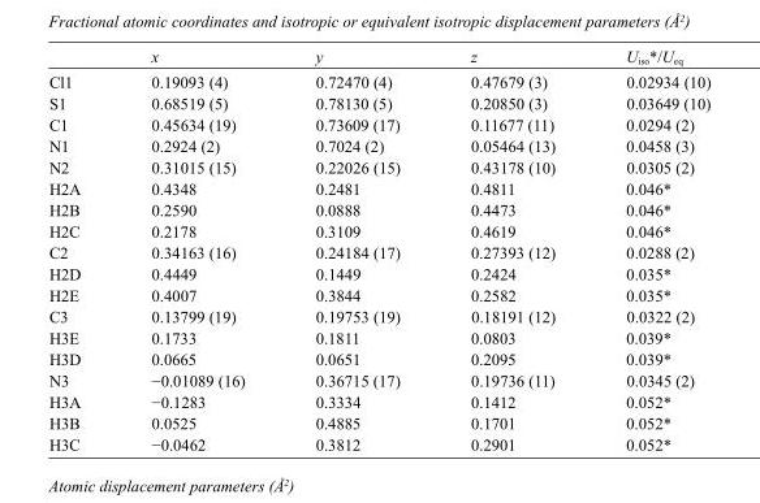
<table><thead><tr><td></td><td>x</td><td>y</td><td>z</td><td>U<sub>iso</sub>*/U<sub>eq</sub></td></tr></thead><tbody><tr><td>Cl1</td><td>0.19093 (4)</td><td>0.72470 (4)</td><td>0.47679 (3)</td><td>0.02934 (10)</td></tr><tr><td>S1</td><td>0.68519 (5)</td><td>0.78130 (5)</td><td>0.20850 (3)</td><td>0.03649 (10)</td></tr><tr><td>C1</td><td>0.45634 (19)</td><td>0.73609 (17)</td><td>0.11677 (11)</td><td>0.0294 (2)</td></tr><tr><td>N1</td><td>0.2924 (2)</td><td>0.7024 (2)</td><td>0.05464 (13)</td><td>0.0458 (3)</td></tr><tr><td>N2</td><td>0.31015 (15)</td><td>0.22026 (15)</td><td>0.43178 (10)</td><td>0.0305 (2)</td></tr><tr><td>H2A</td><td>0.4348</td><td>0.2481</td><td>0.4811</td><td>0.046*</td></tr><tr><td>H2B</td><td>0.2590</td><td>0.0888</td><td>0.4473</td><td>0.046*</td></tr><tr><td>H2C</td><td>0.2178</td><td>0.3109</td><td>0.4619</td><td>0.046*</td></tr><tr><td>C2</td><td>0.34163 (16)</td><td>0.24184 (17)</td><td>0.27393 (12)</td><td>0.0288 (2)</td></tr><tr><td>H2D</td><td>0.4449</td><td>0.1449</td><td>0.2424</td><td>0.035*</td></tr><tr><td>H2E</td><td>0.4007</td><td>0.3844</td><td>0.2582</td><td>0.035*</td></tr><tr><td>C3</td><td>0.13799 (19)</td><td>0.19753 (19)</td><td>0.18191 (12)</td><td>0.0322 (2)</td></tr><tr><td>H3E</td><td>0.1733</td><td>0.1811</td><td>0.0803</td><td>0.039*</td></tr><tr><td>H3D</td><td>0.0665</td><td>0.0651</td><td>0.2095</td><td>0.039*</td></tr><tr><td>N3</td><td>−0.01089 (16)</td><td>0.36715 (17)</td><td>0.19736 (11)</td><td>0.0345 (2)</td></tr><tr><td>H3A</td><td>−0.1283</td><td>0.3334</td><td>0.1412</td><td>0.052*</td></tr><tr><td>H3B</td><td>0.0525</td><td>0.4885</td><td>0.1701</td><td>0.052*</td></tr><tr><td>H3C</td><td>−0.0462</td><td>0.3812</td><td>0.2901</td><td>0.052*</td></tr></tbody></table>